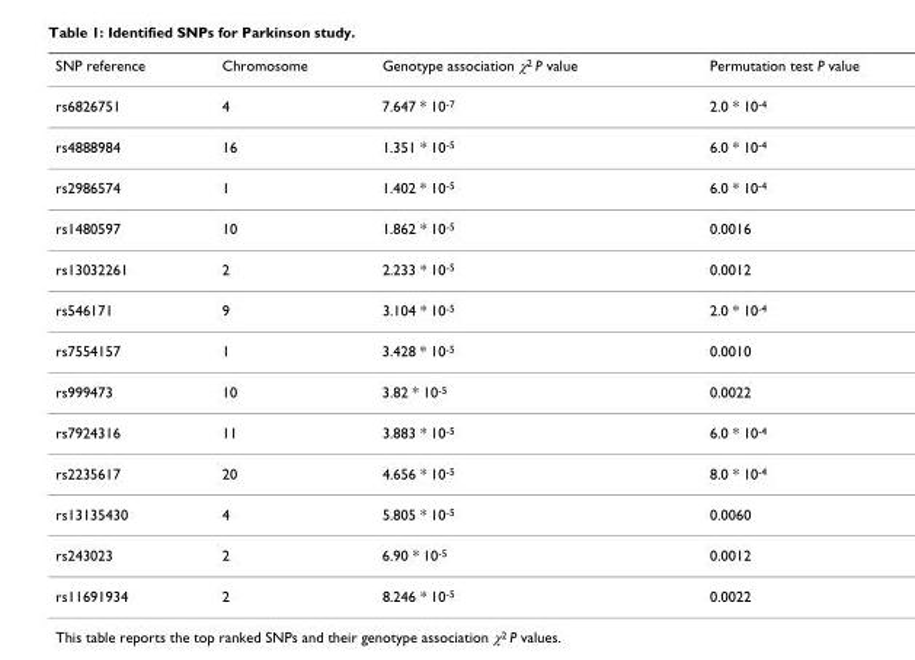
<table><thead><tr><td>SNP reference</td><td>Chromosome</td><td>Genotype association χ<sup>2</sup> P value</td><td>Permutation test P value</td></tr></thead><tbody><tr><td>rs6826751</td><td>4</td><td>7.647 * 10<sup>-7</sup></td><td>2.0 * 10<sup>-4</sup></td></tr><tr><td>rs4888984</td><td>16</td><td>1.351 * 10<sup>-5</sup></td><td>6.0 * 10<sup>-4</sup></td></tr><tr><td>rs2986574</td><td>1</td><td>1.402 * 10<sup>-5</sup></td><td>6.0 * 10<sup>-4</sup></td></tr><tr><td>rs1480597</td><td>10</td><td>1.862 * 10<sup>-5</sup></td><td>0.0016</td></tr><tr><td>rs13032261</td><td>2</td><td>2.233 * 10<sup>-5</sup></td><td>0.0012</td></tr><tr><td>rs546171</td><td>9</td><td>3.104 * 10<sup>-5</sup></td><td>2.0 * 10<sup>-4</sup></td></tr><tr><td>rs7554157</td><td>1</td><td>3.428 * 10<sup>-5</sup></td><td>0.0010</td></tr><tr><td>rs999473</td><td>10</td><td>3.82 * 10<sup>-5</sup></td><td>0.0022</td></tr><tr><td>rs7924316</td><td>11</td><td>3.883 * 10<sup>-5</sup></td><td>6.0 * 10<sup>-4</sup></td></tr><tr><td>rs2235617</td><td>20</td><td>4.656 * 10<sup>-5</sup></td><td>8.0 * 10<sup>-4</sup></td></tr><tr><td>rs13135430</td><td>4</td><td>5.805 * 10<sup>-5</sup></td><td>0.0060</td></tr><tr><td>rs243023</td><td>2</td><td>6.90 * 10<sup>-5</sup></td><td>0.0012</td></tr><tr><td>rs11691934</td><td>2</td><td>8.246 * 10<sup>-5</sup></td><td>0.0022</td></tr></tbody></table>